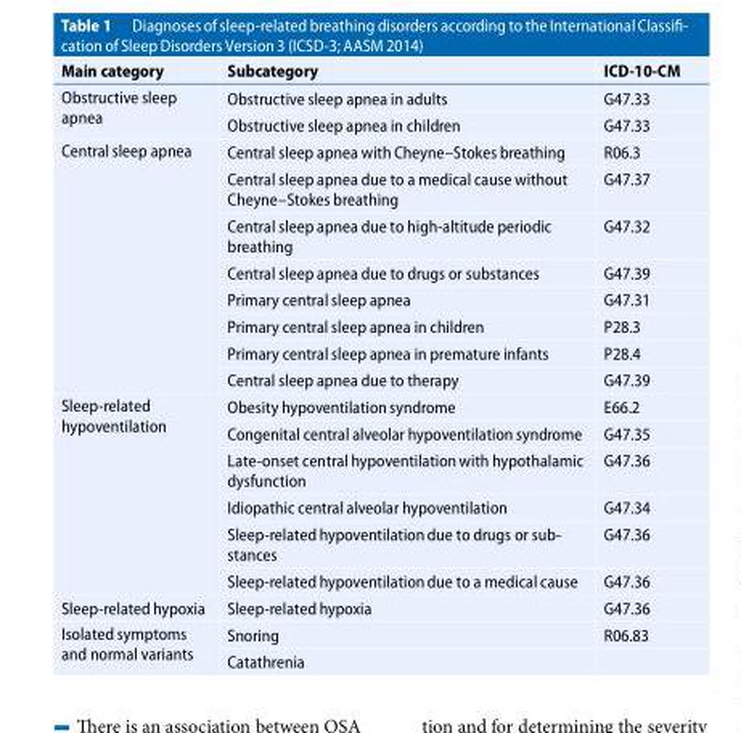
<table><thead><tr><td>Main category</td><td>Subcategory</td><td>ICD-10-CM</td></tr></thead><tbody><tr><td rowspan="2">Obstructive sleep apnea</td><td>Obstructive sleep apnea in adults</td><td>G47.33</td></tr><tr><td>Obstructive sleep apnea in children</td><td>G47.33</td></tr><tr><td rowspan="8">Central sleep apnea</td><td>Central sleep apnea with Cheyne–Stokes breathing</td><td>R06.3</td></tr><tr><td>Central sleep apnea due to a medical cause without Cheyne–Stokes breathing</td><td>G47.37</td></tr><tr><td>Central sleep apnea due to high-altitude periodic breathing</td><td>G47.32</td></tr><tr><td>Central sleep apnea due to drugs or substances</td><td>G47.39</td></tr><tr><td>Primary central sleep apnea</td><td>G47.31</td></tr><tr><td>Primary central sleep apnea in children</td><td>P28.3</td></tr><tr><td>Primary central sleep apnea in premature infants</td><td>P28.4</td></tr><tr><td>Central sleep apnea due to therapy</td><td>G47.39</td></tr><tr><td rowspan="6">Sleep-related hypoventilation</td><td>Obesity hypoventilation syndrome</td><td>E66.2</td></tr><tr><td>Congenital central alveolar hypoventilation syndrome</td><td>G47.35</td></tr><tr><td>Late-onset central hypoventilation with hypothalamic dysfunction</td><td>G47.36</td></tr><tr><td>Idiopathic central alveolar hypoventilation</td><td>G47.34</td></tr><tr><td>Sleep-related hypoventilation due to drugs or sub- stances</td><td>G47.36</td></tr><tr><td>Sleep-related hypoventilation due to a medical cause</td><td>G47.36</td></tr><tr><td>Sleep-relatedhypoxia</td><td>Sleep-related hypoxia</td><td>G47.36</td></tr><tr><td rowspan="2">Isolated symptoms and normal variants</td><td>Snoring</td><td>R06.83</td></tr><tr><td>Catathrenia</td><td></td></tr></tbody></table>